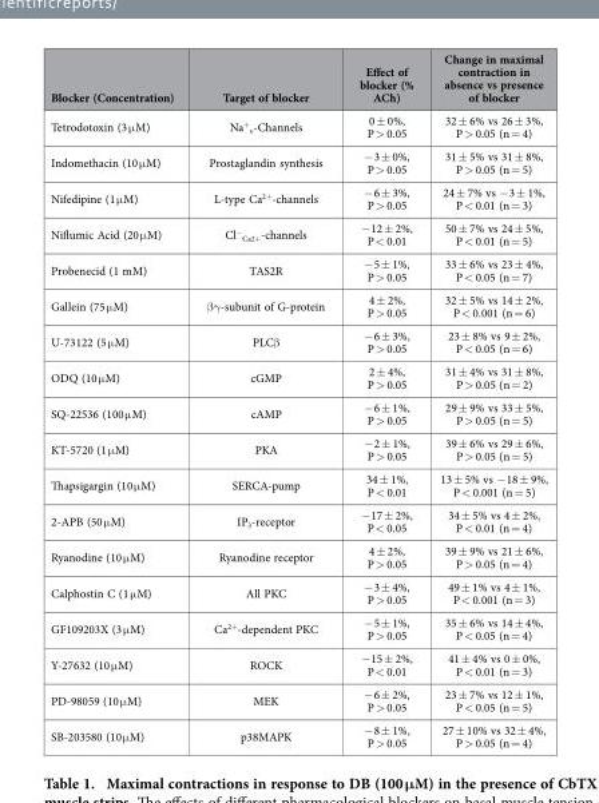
<table><thead><tr><td>Blocker (Concentration)</td><td>Target of blocker</td><td>Effect of blocker (% ACh)</td><td>Change in maximal contraction in absence vs presence of blocker</td></tr></thead><tbody><tr><td>Tetrodotoxin (3 μ M)</td><td>Na<sup>+</sup> <sub>v</sub>-Channels</td><td>0 ± 0%, P &gt; 0.05</td><td>32 ± 6% vs 26 ± 3%, P &gt; 0.05 (n = 4)</td></tr><tr><td>Indomethacin (10 μ M)</td><td>Prostaglandin synthesis</td><td>− 3 ± 0%, P &gt; 0.05</td><td>31 ± 5% vs 31 ± 8%, P &gt; 0.05 (n = 5)</td></tr><tr><td>Nifedipine (1 μ M)</td><td>L-type Ca<sup>2+</sup>-channels</td><td>− 6 ± 3%, P &gt; 0.05</td><td>24 ± 7% vs − 3 ± 1%, P &lt; 0.01 (n = 3)</td></tr><tr><td>Niflumic Acid (20 μ M)</td><td>Cl<sup>−</sup> <sub>Ca2+</sub>-channels</td><td>− 12 ± 2%, P &lt; 0.01</td><td>50 ± 7% vs 24 ± 5%, P &lt; 0.01 (n = 5)</td></tr><tr><td>Probenecid (1 mM)</td><td>TAS2R</td><td>− 5 ± 1%, P &gt; 0.05</td><td>33 ± 6% vs 23 ± 4%, P &lt; 0.05 (n = 7)</td></tr><tr><td>Gallein (75 μ M)</td><td>β γ -subunit of G-protein</td><td>4 ± 2%, P &gt; 0.05</td><td>32 ± 5% vs 14 ± 2%, P &lt; 0.001 (n = 6)</td></tr><tr><td>U-73122 (5 μ M)</td><td>PLCβ</td><td>− 6 ± 3%, P &gt; 0.05</td><td>23 ± 8% vs 9 ± 2%, P &lt; 0.05 (n = 6)</td></tr><tr><td>ODQ (10 μ M)</td><td>cGMP</td><td>2 ± 4%, P &gt; 0.05</td><td>31 ± 4% vs 31 ± 8%, P &gt; 0.05 (n = 2)</td></tr><tr><td>SQ-22536 (100 μ M)</td><td>cAMP</td><td>− 6 ± 1%, P &gt; 0.05</td><td>29 ± 9% vs 33 ± 5%, P &gt; 0.05 (n = 5)</td></tr><tr><td>KT-5720 (1 μ M)</td><td>PKA</td><td>− 2 ± 1%, P &gt; 0.05</td><td>39 ± 6% vs 29 ± 6%, P &gt; 0.05 (n = 5)</td></tr><tr><td>Thapsigargin (10 μ M)</td><td>SERCA-pump</td><td>34 ± 1%, P &lt; 0.01</td><td>13 ± 5% vs − 18 ± 9%, P &lt; 0.001 (n = 5)</td></tr><tr><td>2-APB (50 μ M)</td><td>IP<sub>3</sub>-receptor</td><td>− 17 ± 2%, P &lt; 0.05</td><td>34 ± 5% vs 4 ± 2%, P &lt; 0.01 (n = 4)</td></tr><tr><td>Ryanodine (10 μ M)</td><td>Ryanodine receptor</td><td>4 ± 2%, P &gt; 0.05</td><td>39 ± 9% vs 21 ± 6%, P &gt; 0.05 (n = 4)</td></tr><tr><td>Calphostin C (1 μ M)</td><td>All PKC</td><td>− 3 ± 4%, P &gt; 0.05</td><td>49 ± 1% vs 4 ± 1%, P &lt; 0.001 (n = 3)</td></tr><tr><td>GF109203X (3 μ M)</td><td>Ca<sup>2+</sup>-dependent PKC</td><td>− 5 ± 1%, P &gt; 0.05</td><td>35 ± 6% vs 14 ± 4%, P &lt; 0.05 (n = 4)</td></tr><tr><td>Y-27632 (10 μ M)</td><td>ROCK</td><td>− 15 ± 2%, P &lt; 0.01</td><td>41 ± 4% vs 0 ± 0%, P &lt; 0.01 (n = 3)</td></tr><tr><td>PD-98059 (10 μ M)</td><td>MEK</td><td>− 6 ± 2%, P &gt; 0.05</td><td>23 ± 7% vs 12 ± 1%, P &lt; 0.05 (n = 5)</td></tr><tr><td>SB-203580 (10 μ M)</td><td>p38MAPK</td><td>− 8 ± 1%, P &gt; 0.05</td><td>27 ± 10% vs 32 ± 4%, P &gt; 0.05 (n = 4)</td></tr></tbody></table>